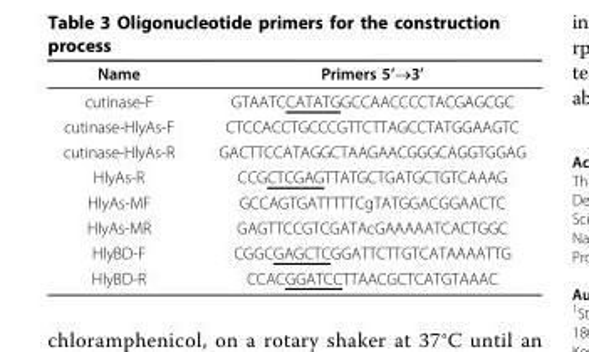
<table><thead><tr><td>Name</td><td>Primers 5’→3’</td></tr></thead><tbody><tr><td>cutinase-F</td><td>GTAATCCATATGGCCAACCCCTACGAGCGC</td></tr><tr><td>cutinase-HlyAs-F</td><td>CTCCACCTGCCCGTTCTTAGCCTATGGAAGTC</td></tr><tr><td>cutinase-HlyAs-R</td><td>GACTTCCATAGGCTAAGAACGGGCAGGTGGAG</td></tr><tr><td>HlyAs-R</td><td>CCGCTCGAGTTATGCTGATGCTGTCAAAG</td></tr><tr><td>HlyAs-MF</td><td>GCCAGTGATTTTTCgTATGGACGGAACTC</td></tr><tr><td>HlyAs-MR</td><td>GAGTTCCGTCGATAcGAAAAATCACTGGC</td></tr><tr><td>HlyBD-F</td><td>CGGCGAGCTCGGATTCTTGTCATAAAATTG</td></tr><tr><td>HlyBD-R</td><td>CCACGGATCCTTAACGCTCATGTAAAC</td></tr></tbody></table>